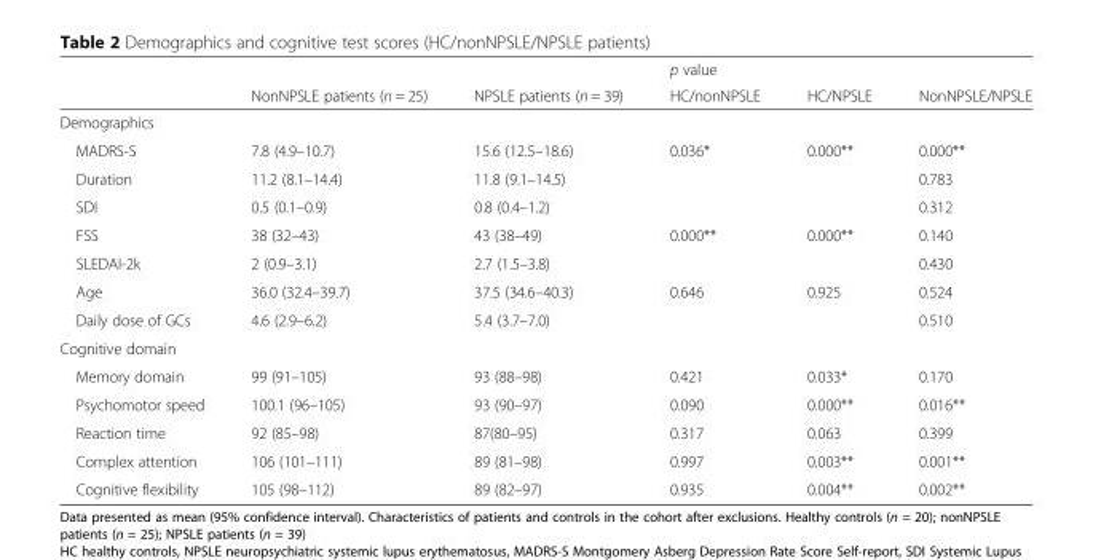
<table><thead><tr><td rowspan="2"></td><td rowspan="2">NonNPSLE patients (n = 25)</td><td rowspan="2">NPSLE patients (n = 39)</td><td rowspan="2">p value HC/nonNPSLE</td><td rowspan="2">HC/NPSLE</td><td rowspan="2">NonNPSLE/NPSLE</td></tr><tr></tr></thead><tbody><tr><td colspan="6">Demographics</td></tr><tr><td>MADRS-S</td><td>7.8 (4.9–10.7)</td><td>15.6 (12.5–18.6)</td><td>0.036*</td><td>0.000**</td><td>0.000**</td></tr><tr><td>Duration</td><td>11.2 (8.1–14.4)</td><td>11.8 (9.1–14.5)</td><td></td><td></td><td>0.783</td></tr><tr><td>SDI</td><td>0.5 (0.1–0.9)</td><td>0.8 (0.4–1.2)</td><td></td><td></td><td>0.312</td></tr><tr><td>FSS</td><td>38 (32–43)</td><td>43 (38–49)</td><td>0.000**</td><td>0.000**</td><td>0.140</td></tr><tr><td>SLEDAI-2k</td><td>2 (0.9–3.1)</td><td>2.7 (1.5–3.8)</td><td></td><td></td><td>0.430</td></tr><tr><td>Age</td><td>36.0 (32.4–39.7)</td><td>37.5 (34.6–40.3)</td><td>0.646</td><td>0.925</td><td>0.524</td></tr><tr><td>Daily dose of GCs</td><td>4.6 (2.9–6.2)</td><td>5.4 (3.7–7.0)</td><td></td><td></td><td>0.510</td></tr><tr><td colspan="6">Cognitive domain</td></tr><tr><td>Memory domain</td><td>99 (91–105)</td><td>93 (88–98)</td><td>0.421</td><td>0.033*</td><td>0.170</td></tr><tr><td>Psychomotor speed</td><td>100.1 (96–105)</td><td>93 (90–97)</td><td>0.090</td><td>0.000**</td><td>0.016**</td></tr><tr><td>Reaction time</td><td>92 (85–98)</td><td>87(80–95)</td><td>0.317</td><td>0.063</td><td>0.399</td></tr><tr><td>Complex attention</td><td>106 (101–111)</td><td>89 (81–98)</td><td>0.997</td><td>0.003**</td><td>0.001**</td></tr><tr><td>Cognitive flexibility</td><td>105 (98–112)</td><td>89 (82–97)</td><td>0.935</td><td>0.004**</td><td>0.002**</td></tr></tbody></table>